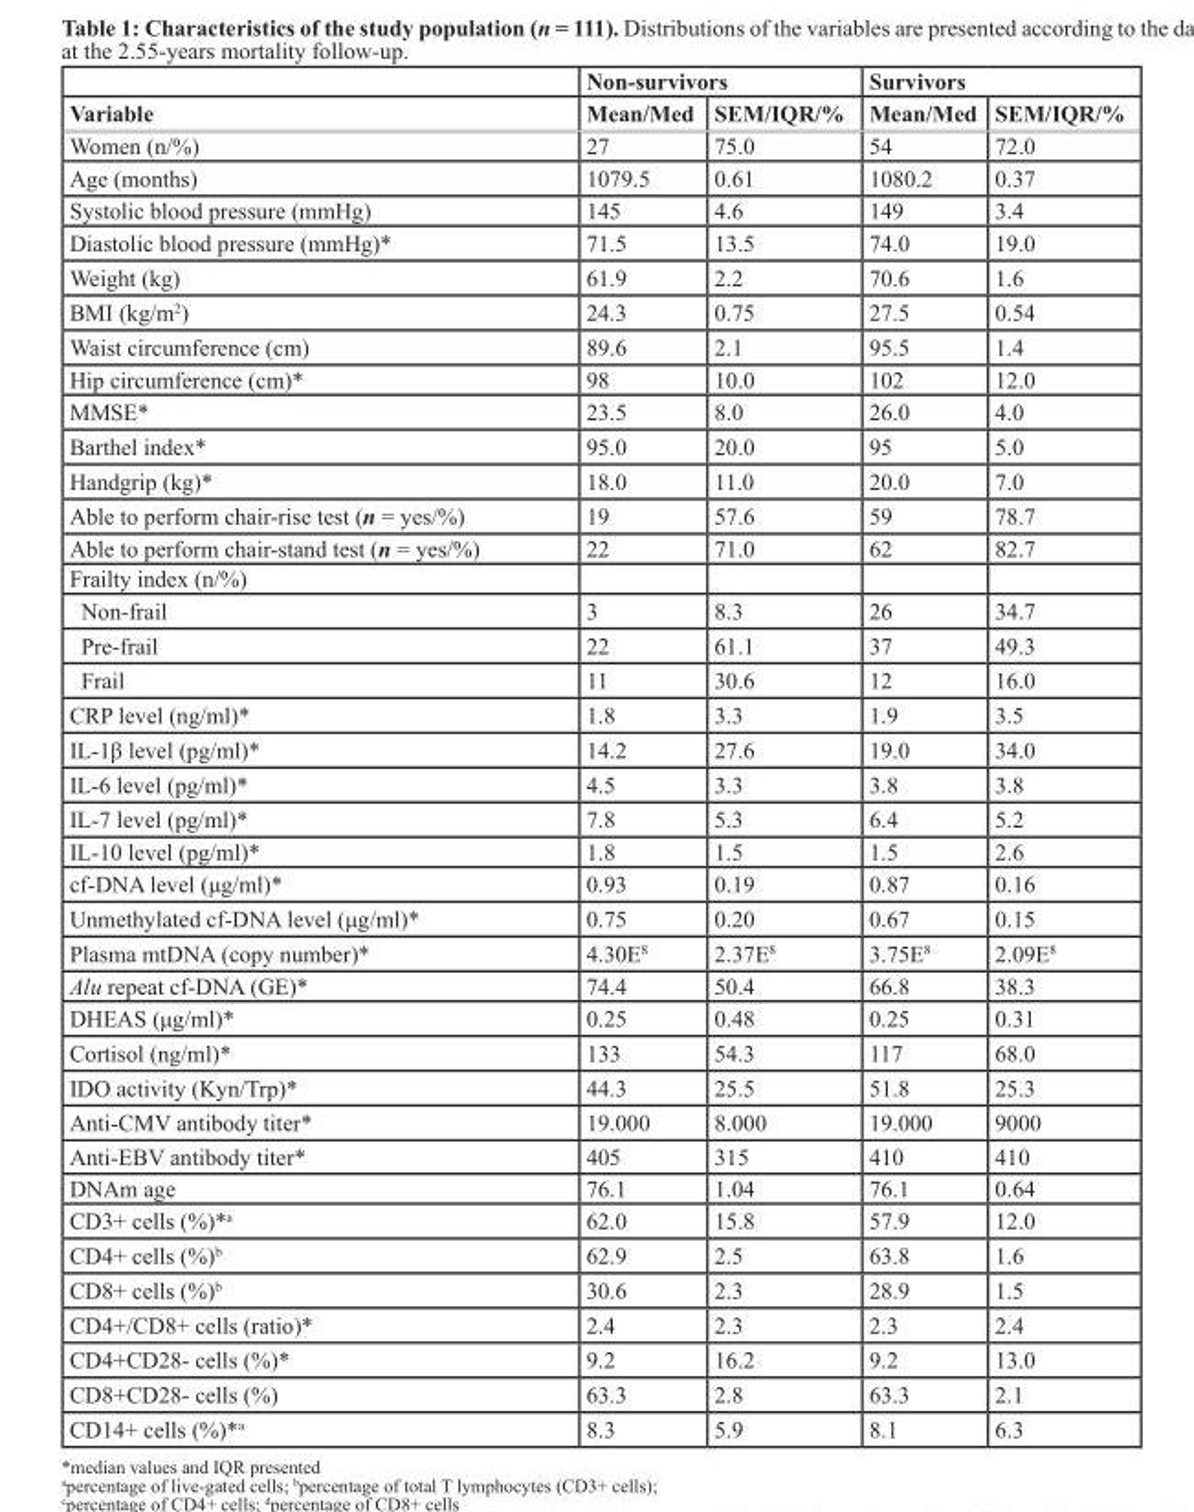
<table><thead><tr><td rowspan="2">Variable</td><td colspan="2">Non-survivors</td><td colspan="2">Survivors</td></tr><tr><td>Mean/Med</td><td>SEM/IQR/%</td><td>Mean/Med</td><td>SEM/IQR/%</td></tr></thead><tbody><tr><td>Women (n/%)</td><td>27</td><td>75.0</td><td>54</td><td>72.0</td></tr><tr><td>Age (months)</td><td>1079.5</td><td>0.61</td><td>1080.2</td><td>0.37</td></tr><tr><td>Systolic blood pressure (mmHg)</td><td>145</td><td>4.6</td><td>149</td><td>3.4</td></tr><tr><td>Diastolic blood pressure (mmHg)*</td><td>71.5</td><td>13.5</td><td>74.0</td><td>19.0</td></tr><tr><td>Weight (kg)</td><td>61.9</td><td>2.2</td><td>70.6</td><td>1.6</td></tr><tr><td>BMI (kg/m2)</td><td>24.3</td><td>0.75</td><td>27.5</td><td>0.54</td></tr><tr><td>Waist circumference (cm)</td><td>89.6</td><td>2.1</td><td>95.5</td><td>1.4</td></tr><tr><td>Hip circumference (cm)*</td><td>98</td><td>10.0</td><td>102</td><td>12.0</td></tr><tr><td>MMSE*</td><td>23.5</td><td>8.0</td><td>26.0</td><td>4.0</td></tr><tr><td>Barthel index*</td><td>95.0</td><td>20.0</td><td>95</td><td>5.0</td></tr><tr><td>Handgrip (kg)*</td><td>18.0</td><td>11.0</td><td>20.0</td><td>7.0</td></tr><tr><td>Able to perform chair-rise test (n = yes/%)</td><td>19</td><td>57.6</td><td>59</td><td>78.7</td></tr><tr><td>Able to perform chair-stand test (n = yes/%)</td><td>22</td><td>71.0</td><td>62</td><td>82.7</td></tr><tr><td colspan="5">Frailty index (n/%)</td></tr><tr><td>Non-frail</td><td>3</td><td>8.3</td><td>26</td><td>34.7</td></tr><tr><td>Pre-frail</td><td>22</td><td>61.1</td><td>37</td><td>49.3</td></tr><tr><td>Frail</td><td>11</td><td>30.6</td><td>12</td><td>16.0</td></tr><tr><td>CRP level (ng/ml)*</td><td>1.8</td><td>3.3</td><td>1.9</td><td>3.5</td></tr><tr><td>IL-1β level (pg/ml)*</td><td>14.2</td><td>27.6</td><td>19.0</td><td>34.0</td></tr><tr><td>IL-6 level (pg/ml)*</td><td>4.5</td><td>3.3</td><td>3.8</td><td>3.8</td></tr><tr><td>IL-7 level (pg/ml)*</td><td>7.8</td><td>5.3</td><td>6.4</td><td>5.2</td></tr><tr><td>IL-10 level (pg/ml)*</td><td>1.8</td><td>1.5</td><td>1.5</td><td>2.6</td></tr><tr><td>cf-DNA level (μg/ml)*</td><td>0.93</td><td>0.19</td><td>0.87</td><td>0.16</td></tr><tr><td>Unmethylated cf-DNA level (μg/ml)*</td><td>0.75</td><td>0.20</td><td>0.67</td><td>0.15</td></tr><tr><td>Plasma mtDNA (copy number)*</td><td>4.30E8</td><td>2.37E8</td><td>3.75E8</td><td>2.09E8</td></tr><tr><td>Alu repeat cf-DNA (GE)*</td><td>74.4</td><td>50.4</td><td>66.8</td><td>38.3</td></tr><tr><td>DHEAS (μg/ml)*</td><td>0.25</td><td>0.48</td><td>0.25</td><td>0.31</td></tr><tr><td>Cortisol (ng/ml)*</td><td>133</td><td>54.3</td><td>117</td><td>68.0</td></tr><tr><td>IDO activity (Kyn/Trp)*</td><td>44.3</td><td>25.5</td><td>51.8</td><td>25.3</td></tr><tr><td>Anti-CMV antibody titer*</td><td>19.000</td><td>8.000</td><td>19.000</td><td>9000</td></tr><tr><td>Anti-EBV antibody titer*</td><td>405</td><td>315</td><td>410</td><td>410</td></tr><tr><td>DNAm age</td><td>76.1</td><td>1.04</td><td>76.1</td><td>0.64</td></tr><tr><td>CD3+ cells (%)*<sup>a</sup></td><td>62.0</td><td>15.8</td><td>57.9</td><td>12.0</td></tr><tr><td>CD4+ cells (%)<sup>b</sup></td><td>62.9</td><td>2.5</td><td>63.8</td><td>1.6</td></tr><tr><td>CD8+ cells (%)<sup>b</sup></td><td>30.6</td><td>2.3</td><td>28.9</td><td>1.5</td></tr><tr><td>CD4+/CD8+ cells (ratio)*</td><td>2.4</td><td>2.3</td><td>2.3</td><td>2.4</td></tr><tr><td>CD4+CD28- cells (%)*</td><td>9.2</td><td>16.2</td><td>9.2</td><td>13.0</td></tr><tr><td>CD8+CD28- cells (%)</td><td>63.3</td><td>2.8</td><td>63.3</td><td>2.1</td></tr><tr><td>CD14+ cells (%)*<sup>a</sup></td><td>8.3</td><td>5.9</td><td>8.1</td><td>6.3</td></tr></tbody></table>